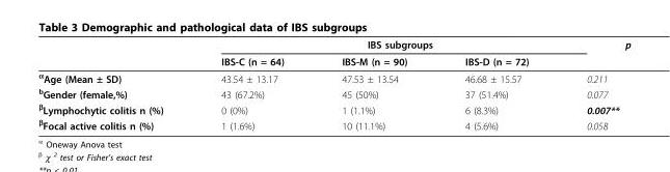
<table><thead><tr><td rowspan="2"></td><td colspan="3">IBS subgroups</td><td rowspan="2">p</td></tr><tr><td>IBS-C (n = 64)</td><td>IBS-M (n = 90)</td><td>IBS-D (n = 72)</td></tr></thead><tbody><tr><td><sup>α</sup>Age (Mean ± SD)</td><td>43.54 ± 13.17</td><td>47.53 ± 13.54</td><td>46.68 ± 15.57</td><td>0.211</td></tr><tr><td><sup>b</sup>Gender (female,%)</td><td>43 (67.2%)</td><td>45 (50%)</td><td>37 (51.4%)</td><td>0.077</td></tr><tr><td><sup>β</sup>Lymphochytic colitis n (%)</td><td>0 (0%)</td><td>1 (1.1%)</td><td>6 (8.3%)</td><td>0.007**</td></tr><tr><td><sup>β</sup>Focal active colitis n (%)</td><td>1 (1.6%)</td><td>10 (11.1%)</td><td>4 (5.6%)</td><td>0.058</td></tr></tbody></table>